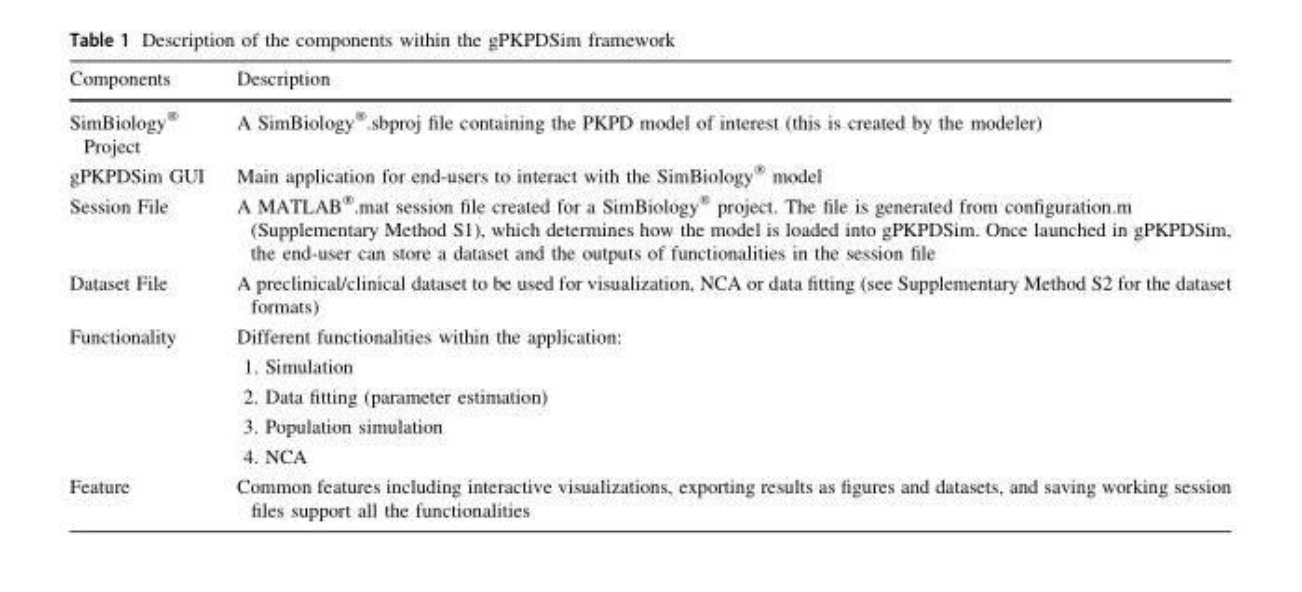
<table><thead><tr><td>Components</td><td>Description</td></tr></thead><tbody><tr><td>SimBiology<sup>®</sup> Project</td><td>A SimBiology<sup>®</sup>.sbproj file containing the PKPD model of interest (this is created by the modeler)</td></tr><tr><td>gPKPDSim GUI</td><td>Main application for end-users to interact with the SimBiology<sup>®</sup> model</td></tr><tr><td>Session File</td><td>A MATLAB<sup>®</sup>.mat session file created for a SimBiology<sup>®</sup> project. The file is generated from configuration.m (Supplementary Method S1), which determines how the model is loaded into gPKPDSim. Once launched in gPKPDSim, the end-user can store a dataset and the outputs of functionalities in the session file</td></tr><tr><td>Dataset File</td><td>A preclinical/clinical dataset to be used for visualization, NCA or data fitting (see Supplementary Method S2 for the dataset formats)</td></tr><tr><td>Functionality</td><td>Different functionalities within the application: 1. Simulation 2. Data fitting (parameter estimation) 3. Population simulation 4. NCA</td></tr><tr><td>Feature</td><td>Common features including interactive visualizations, exporting results as figures and datasets, and saving working session files support all the functionalities</td></tr></tbody></table>